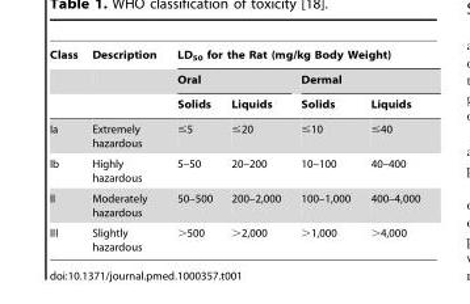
<table><thead><tr><td rowspan="3">Class</td><td rowspan="3">Description</td><td colspan="4">LD<sub>50</sub> for the Rat (mg/kg Body Weight)</td></tr><tr><td colspan="2">Oral</td><td colspan="2">Dermal</td></tr><tr><td>Solids</td><td>Liquids</td><td>Solids</td><td>Liquids</td></tr></thead><tbody><tr><td>Ia</td><td>Extremely hazardous</td><td>≤5</td><td>≤20</td><td>≤10</td><td>≤40</td></tr><tr><td>Ib</td><td>Highly hazardous</td><td>5–50</td><td>20–200</td><td>10–100</td><td>40–400</td></tr><tr><td>II</td><td>Moderately hazardous</td><td>50–500</td><td>200–2,000</td><td>100–1,000</td><td>400–4,000</td></tr><tr><td>III</td><td>Slightly hazardous</td><td>&gt;500</td><td>&gt;2,000</td><td>&gt;1,000</td><td>&gt;4,000</td></tr></tbody></table>